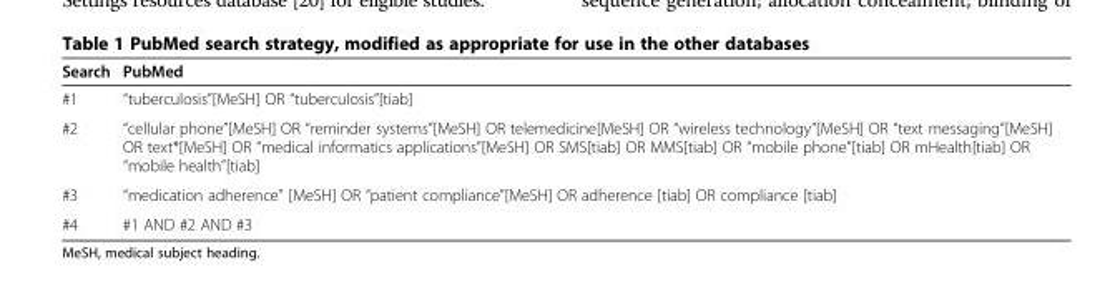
<table><thead><tr><td>Search</td><td>PubMed</td></tr></thead><tbody><tr><td>#1</td><td>“tuberculosis”[MeSH] OR “tuberculosis”[tiab]</td></tr><tr><td>#2</td><td>“cellular phone”[MeSH] OR “reminder systems”[MeSH] OR telemedicine[MeSH] OR “wireless technology”[MeSH] OR “text messaging”[MeSH] OR text*[MeSH] OR “medical informatics applications”[MeSH] OR SMS[tiab] OR MMS[tiab] OR “mobile phone”[tiab] OR mHealth[tiab] OR “mobile health”[tiab]</td></tr><tr><td>#3</td><td>“medication adherence” [MeSH] OR “patient compliance”[MeSH] OR adherence [tiab] OR compliance [tiab]</td></tr><tr><td>#4</td><td>#1 AND #2 AND #3</td></tr></tbody></table>